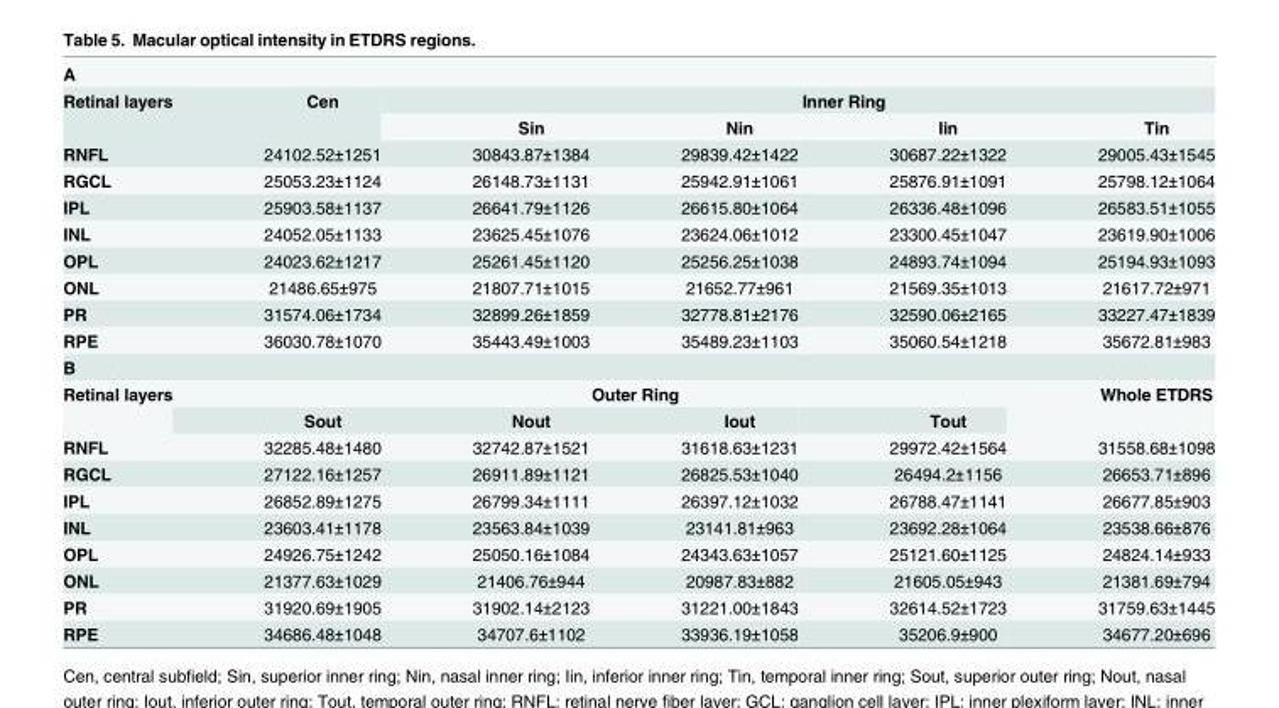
<table><tbody><tr><td colspan="6">A</td></tr><tr><td rowspan="2">Retinal layers</td><td rowspan="2">Cen</td><td colspan="4">Inner Ring</td></tr><tr><td>Sin</td><td>Nin</td><td>Iin</td><td>Tin</td></tr><tr><td>RNFL</td><td>24102.52±1251</td><td>30843.87±1384</td><td>29839.42±1422</td><td>30687.22±1322</td><td>29005.43±1545</td></tr><tr><td>RGCL</td><td>25053.23±1124</td><td>26148.73±1131</td><td>25942.91±1061</td><td>25876.91±1091</td><td>25798.12±1064</td></tr><tr><td>IPL</td><td>25903.58±1137</td><td>26641.79±1126</td><td>26615.80±1064</td><td>26336.48±1096</td><td>26583.51±1055</td></tr><tr><td>INL</td><td>24052.05±1133</td><td>23625.45±1076</td><td>23624.06±1012</td><td>23300.45±1047</td><td>23619.90±1006</td></tr><tr><td>OPL</td><td>24023.62±1217</td><td>25261.45±1120</td><td>25256.25±1038</td><td>24893.74±1094</td><td>25194.93±1093</td></tr><tr><td>ONL</td><td>21486.65±975</td><td>21807.71±1015</td><td>21652.77±961</td><td>21569.35±1013</td><td>21617.72±971</td></tr><tr><td>PR</td><td>31574.06±1734</td><td>32899.26±1859</td><td>32778.81±2176</td><td>32590.06±2165</td><td>33227.47±1839</td></tr><tr><td>RPE</td><td>36030.78±1070</td><td>35443.49±1003</td><td>35489.23±1103</td><td>35060.54±1218</td><td>35672.81±983</td></tr><tr><td colspan="6">B</td></tr><tr><td rowspan="2">Retinal layers</td><td colspan="4">Outer Ring</td><td rowspan="2">Whole ETDRS</td></tr><tr><td>Sout</td><td>Nout</td><td>Iout</td><td>Tout</td></tr><tr><td>RNFL</td><td>32285.48±1480</td><td>32742.87±1521</td><td>31618.63±1231</td><td>29972.42±1564</td><td>31558.68±1098</td></tr><tr><td>RGCL</td><td>27122.16±1257</td><td>26911.89±1121</td><td>26825.53±1040</td><td>26494.2±1156</td><td>26653.71±896</td></tr><tr><td>IPL</td><td>26852.89±1275</td><td>26799.34±1111</td><td>26397.12±1032</td><td>26788.47±1141</td><td>26677.85±903</td></tr><tr><td>INL</td><td>23603.41±1178</td><td>23563.84±1039</td><td>23141.81±963</td><td>23692.28±1064</td><td>23538.66±876</td></tr><tr><td>OPL</td><td>24926.75±1242</td><td>25050.16±1084</td><td>24343.63±1057</td><td>25121.60±1125</td><td>24824.14±933</td></tr><tr><td>ONL</td><td>21377.63±1029</td><td>21406.76±944</td><td>20987.83±882</td><td>21605.05±943</td><td>21381.69±794</td></tr><tr><td>PR</td><td>31920.69±1905</td><td>31902.14±2123</td><td>31221.00±1843</td><td>32614.52±1723</td><td>31759.63±1445</td></tr><tr><td>RPE</td><td>34686.48±1048</td><td>34707.6±1102</td><td>33936.19±1058</td><td>35206.9±900</td><td>34677.20±696</td></tr></tbody></table>